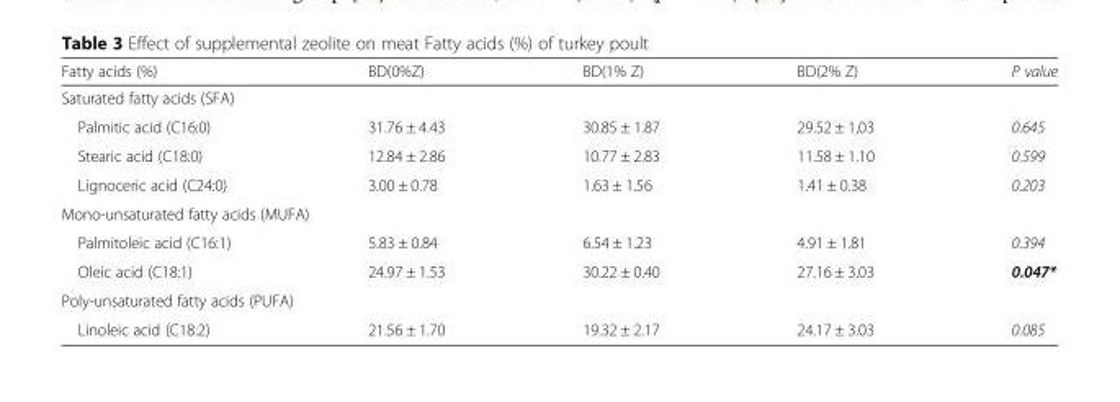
<table><thead><tr><td>Fatty acids (%)</td><td>BD(0%Z)</td><td>BD(1% Z)</td><td>BD(2% Z)</td><td>P value</td></tr></thead><tbody><tr><td colspan="5">Saturated fatty acids (SFA)</td></tr><tr><td>Palmitic acid (C16:0)</td><td>31.76 ± 4.43</td><td>30.85 ± 1.87</td><td>29.52 ± 1,03</td><td>0.645</td></tr><tr><td>Stearic acid (C18:0)</td><td>12.84 ± 2.86</td><td>10.77 ± 2.83</td><td>11.58 ± 1.10</td><td>0.599</td></tr><tr><td>Lignoceric acid (C24:0)</td><td>3.00 ± 0.78</td><td>1.63 ± 1.56</td><td>1.41 ± 0.38</td><td>0.203</td></tr><tr><td colspan="5">Mono-unsaturated fatty acids (MUFA)</td></tr><tr><td>Palmitoleic acid (C16:1)</td><td>5.83 ± 0.84</td><td>6.54 ± 1.23</td><td>4.91 ± 1.81</td><td>0.394</td></tr><tr><td>Oleic acid (C18:1)</td><td>24.97 ± 1.53</td><td>30.22 ± 0.40</td><td>27.16 ± 3.03</td><td>0.047*</td></tr><tr><td colspan="5">Poly-unsaturated fatty acids (PUFA)</td></tr><tr><td>Linoleic acid (C18:2)</td><td>21.56 ± 1.70</td><td>19.32 ± 2.17</td><td>24.17 ± 3.03</td><td>0.085</td></tr></tbody></table>